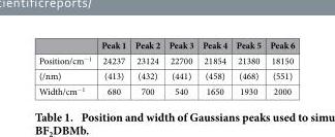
<table><thead><tr><td></td><td>Peak 1</td><td>Peak 2</td><td>Peak 3</td><td>Peak 4</td><td>Peak 5</td><td>Peak 6</td></tr></thead><tbody><tr><td>Position/cm<sup>−1</sup></td><td>24237</td><td>23124</td><td>22700</td><td>21854</td><td>21380</td><td>18150</td></tr><tr><td>(/nm)</td><td>(413)</td><td>(432)</td><td>(441)</td><td>(458)</td><td>(468)</td><td>(551)</td></tr><tr><td>Width/cm<sup>−1</sup></td><td>680</td><td>700</td><td>540</td><td>1650</td><td>1930</td><td>2000</td></tr></tbody></table>